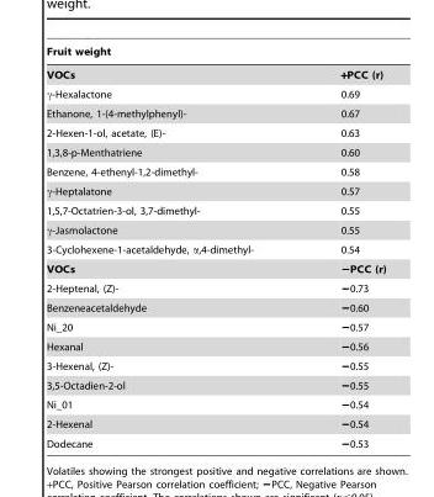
<table><thead><tr><td colspan="2">Fruit weight</td></tr><tr><td>VOCs</td><td>+PCC (r)</td></tr></thead><tbody><tr><td>γ-Hexalactone</td><td>0.69</td></tr><tr><td>Ethanone, 1-(4-methylphenyl)-</td><td>0.67</td></tr><tr><td>2-Hexen-1-ol, acetate, (E)-</td><td>0.63</td></tr><tr><td>1,3,8-p-Menthatriene</td><td>0.60</td></tr><tr><td>Benzene, 4-ethenyl-1,2-dimethyl-</td><td>0.58</td></tr><tr><td>γ-Heptalatone</td><td>0.57</td></tr><tr><td>1,5,7-Octatrien-3-ol, 3,7-dimethyl-</td><td>0.55</td></tr><tr><td>γ-Jasmolactone</td><td>0.55</td></tr><tr><td>3-Cyclohexene-1-acetaldehyde, α,4-dimethyl-</td><td>0.54</td></tr><tr><td>VOCs</td><td>−PCC (r)</td></tr><tr><td>2-Heptenal, (Z)-</td><td>−0.73</td></tr><tr><td>Benzeneacetaldehyde</td><td>−0.60</td></tr><tr><td>Ni_20</td><td>−0.57</td></tr><tr><td>Hexanal</td><td>−0.56</td></tr><tr><td>3-Hexenal, (Z)-</td><td>−0.55</td></tr><tr><td>3,5-Octadien-2-ol</td><td>−0.55</td></tr><tr><td>Ni_01</td><td>−0.54</td></tr><tr><td>2-Hexenal</td><td>−0.54</td></tr><tr><td>Dodecane</td><td>−0.53</td></tr></tbody></table>